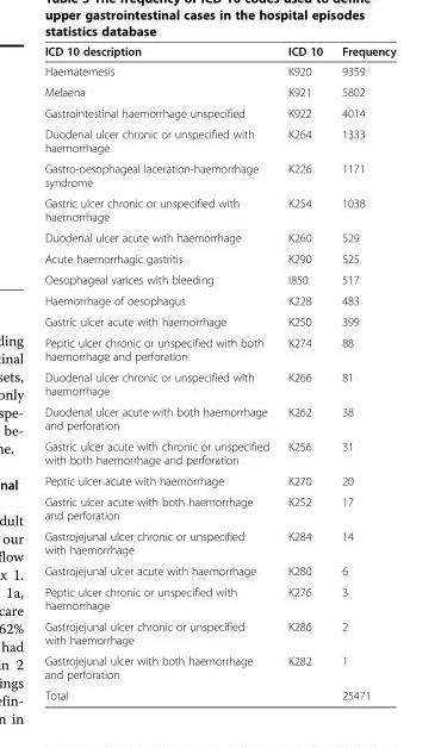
<table><thead><tr><td>ICD 10 description</td><td>ICD 10</td><td>Frequency</td></tr></thead><tbody><tr><td>Haematemesis</td><td>K920</td><td>9359</td></tr><tr><td>Melaena</td><td>K921</td><td>5802</td></tr><tr><td>Gastrointestinal haemorrhage unspecified</td><td>K922</td><td>4014</td></tr><tr><td>Duodenal ulcer chronic or unspecified with haemorrhage</td><td>K264</td><td>1333</td></tr><tr><td>Gastro-oesophageal laceration-haemorrhage syndrome</td><td>K226</td><td>1171</td></tr><tr><td>Gastric ulcer chronic or unspecified with haemorrhage</td><td>K254</td><td>1038</td></tr><tr><td>Duodenal ulcer acute with haemorrhage</td><td>K260</td><td>529</td></tr><tr><td>Acute haemorrhagic gastritis</td><td>K290</td><td>525</td></tr><tr><td>Oesophageal varices with bleeding</td><td>I850</td><td>517</td></tr><tr><td>Haemorrhage of oesophagus</td><td>K228</td><td>483</td></tr><tr><td>Gastric ulcer acute with haemorrhage</td><td>K250</td><td>399</td></tr><tr><td>Peptic ulcer chronic or unspecified with both haemorrhage and perforation</td><td>K274</td><td>88</td></tr><tr><td>Duodenal ulcer chronic or unspecified with haemorrhage</td><td>K266</td><td>81</td></tr><tr><td>Duodenal ulcer acute with both haemorrhage and perforation</td><td>K262</td><td>38</td></tr><tr><td>Gastric ulcer acute with chronic or unspecified with both haemorrhage and perforation</td><td>K256</td><td>31</td></tr><tr><td>Peptic ulcer acute with haemorrhage</td><td>K270</td><td>20</td></tr><tr><td>Gastric ulcer acute with both haemorrhage and perforation</td><td>K252</td><td>17</td></tr><tr><td>Gastrojejunal ulcer chronic or unspecified with haemorrhage</td><td>K284</td><td>14</td></tr><tr><td>Gastrojejunal ulcer acute with haemorrhage</td><td>K280</td><td>6</td></tr><tr><td>Peptic ulcer chronic or unspecified with haemorrhage</td><td>K276</td><td>3</td></tr><tr><td>Gastrojejunal ulcer chronic or unspecified with haemorrhage</td><td>K286</td><td>2</td></tr><tr><td>Gastrojejunal ulcer with both haemorrhage and perforation</td><td>K282</td><td>1</td></tr><tr><td>Total</td><td></td><td>25471</td></tr></tbody></table>